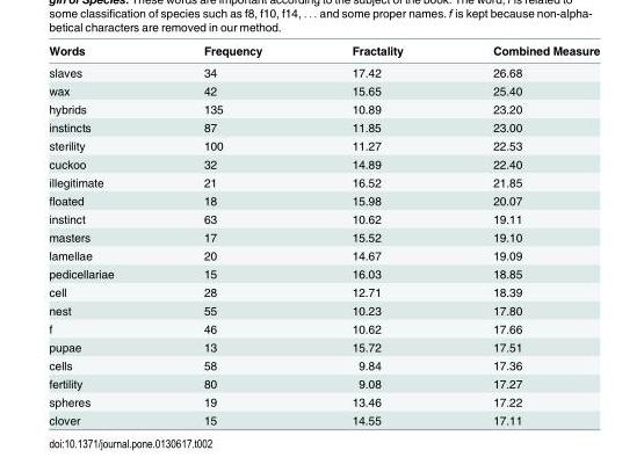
<table><thead><tr><td>Words</td><td>Frequency</td><td>Fractality</td><td>Combined Measure</td></tr></thead><tbody><tr><td>slaves</td><td>34</td><td>17.42</td><td>26.68</td></tr><tr><td>wax</td><td>42</td><td>15.65</td><td>25.40</td></tr><tr><td>hybrids</td><td>135</td><td>10.89</td><td>23.20</td></tr><tr><td>instincts</td><td>87</td><td>11.85</td><td>23.00</td></tr><tr><td>sterility</td><td>100</td><td>11.27</td><td>22.53</td></tr><tr><td>cuckoo</td><td>32</td><td>14.89</td><td>22.40</td></tr><tr><td>illegitimate</td><td>21</td><td>16.52</td><td>21.85</td></tr><tr><td>floated</td><td>18</td><td>15.98</td><td>20.07</td></tr><tr><td>instinct</td><td>63</td><td>10.62</td><td>19.11</td></tr><tr><td>masters</td><td>17</td><td>15.52</td><td>19.10</td></tr><tr><td>lamellae</td><td>20</td><td>14.67</td><td>19.09</td></tr><tr><td>pedicellariae</td><td>15</td><td>16.03</td><td>18.85</td></tr><tr><td>cell</td><td>28</td><td>12.71</td><td>18.39</td></tr><tr><td>nest</td><td>55</td><td>10.23</td><td>17.80</td></tr><tr><td>f</td><td>46</td><td>10.62</td><td>17.66</td></tr><tr><td>pupae</td><td>13</td><td>15.72</td><td>17.51</td></tr><tr><td>cells</td><td>58</td><td>9.84</td><td>17.36</td></tr><tr><td>fertility</td><td>80</td><td>9.08</td><td>17.27</td></tr><tr><td>spheres</td><td>19</td><td>13.46</td><td>17.22</td></tr><tr><td>clover</td><td>15</td><td>14.55</td><td>17.11</td></tr></tbody></table>